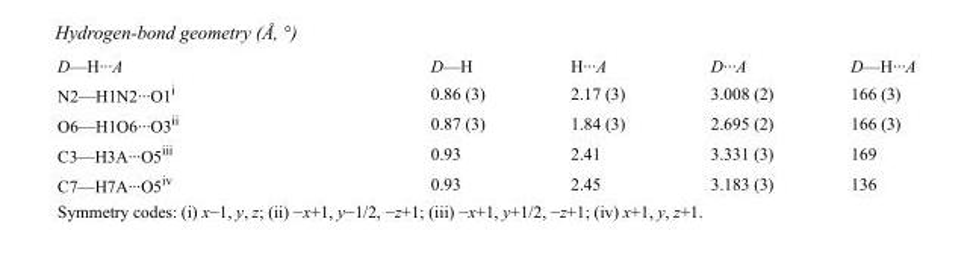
<table><tbody><tr><td>D—H···A</td><td>D—H</td><td>H···A</td><td>D···A</td><td>D—H···A</td></tr><tr><td>N2—H1N2···O1<sup>i</sup></td><td>0.86 (3)</td><td>2.17 (3)</td><td>3.008 (2)</td><td>166 (3)</td></tr><tr><td>O6—H1O6···O3<sup>ii</sup></td><td>0.87 (3)</td><td>1.84 (3)</td><td>2.695 (2)</td><td>166 (3)</td></tr><tr><td>C3—H3A···O5<sup>iii</sup></td><td>0.93</td><td>2.41</td><td>3.331 (3)</td><td>169</td></tr><tr><td>C7—H7A···O5<sup>iv</sup></td><td>0.93</td><td>2.45</td><td>3.183 (3)</td><td>136</td></tr></tbody></table>